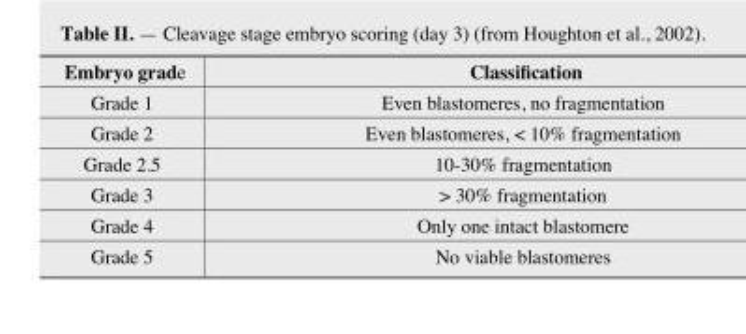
<table><thead><tr><td>Embryo grade</td><td>Classification</td></tr></thead><tbody><tr><td>Grade 1</td><td>Even blastomeres, no fragmentation</td></tr><tr><td>Grade 2</td><td>Even blastomeres, &lt; 10% fragmentation</td></tr><tr><td>Grade 2.5</td><td>10-30% fragmentation</td></tr><tr><td>Grade 3</td><td>&gt; 30% fragmentation</td></tr><tr><td>Grade 4</td><td>Only one intact blastomere</td></tr><tr><td>Grade 5</td><td>No viable blastomeres</td></tr></tbody></table>